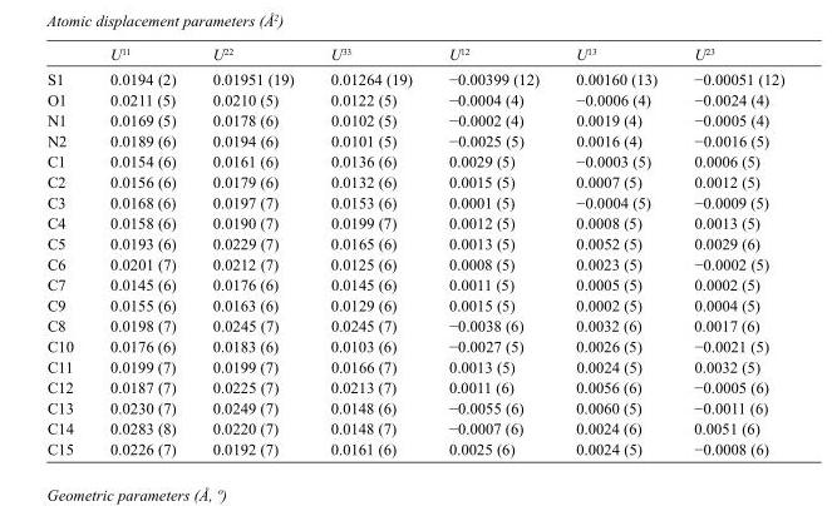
<table><thead><tr><td></td><td>U<sup>11</sup></td><td>U<sup>22</sup></td><td>U<sup>33</sup></td><td>U<sup>12</sup></td><td>U<sup>13</sup></td><td>U<sup>23</sup></td></tr></thead><tbody><tr><td>S1</td><td>0.0194 (2)</td><td>0.01951 (19)</td><td>0.01264 (19)</td><td>−0.00399 (12)</td><td>0.00160 (13)</td><td>−0.00051 (12)</td></tr><tr><td>O1</td><td>0.0211 (5)</td><td>0.0210 (5)</td><td>0.0122 (5)</td><td>−0.0004 (4)</td><td>−0.0006 (4)</td><td>−0.0024 (4)</td></tr><tr><td>N1</td><td>0.0169 (5)</td><td>0.0178 (6)</td><td>0.0102 (5)</td><td>−0.0002 (4)</td><td>0.0019 (4)</td><td>−0.0005 (4)</td></tr><tr><td>N2</td><td>0.0189 (6)</td><td>0.0194 (6)</td><td>0.0101 (5)</td><td>−0.0025 (5)</td><td>0.0016 (4)</td><td>−0.0016 (5)</td></tr><tr><td>C1</td><td>0.0154 (6)</td><td>0.0161 (6)</td><td>0.0136 (6)</td><td>0.0029 (5)</td><td>−0.0003 (5)</td><td>0.0006 (5)</td></tr><tr><td>C2</td><td>0.0156 (6)</td><td>0.0179 (6)</td><td>0.0132 (6)</td><td>0.0015 (5)</td><td>0.0007 (5)</td><td>0.0012 (5)</td></tr><tr><td>C3</td><td>0.0168 (6)</td><td>0.0197 (7)</td><td>0.0153 (6)</td><td>0.0001 (5)</td><td>−0.0004 (5)</td><td>−0.0009 (5)</td></tr><tr><td>C4</td><td>0.0158 (6)</td><td>0.0190 (7)</td><td>0.0199 (7)</td><td>0.0012 (5)</td><td>0.0008 (5)</td><td>0.0013 (5)</td></tr><tr><td>C5</td><td>0.0193 (6)</td><td>0.0229 (7)</td><td>0.0165 (6)</td><td>0.0013 (5)</td><td>0.0052 (5)</td><td>0.0029 (6)</td></tr><tr><td>C6</td><td>0.0201 (7)</td><td>0.0212 (7)</td><td>0.0125 (6)</td><td>0.0008 (5)</td><td>0.0023 (5)</td><td>−0.0002 (5)</td></tr><tr><td>C7</td><td>0.0145 (6)</td><td>0.0176 (6)</td><td>0.0145 (6)</td><td>0.0011 (5)</td><td>0.0005 (5)</td><td>0.0002 (5)</td></tr><tr><td>C9</td><td>0.0155 (6)</td><td>0.0163 (6)</td><td>0.0129 (6)</td><td>0.0015 (5)</td><td>0.0002 (5)</td><td>0.0004 (5)</td></tr><tr><td>C8</td><td>0.0198 (7)</td><td>0.0245 (7)</td><td>0.0245 (7)</td><td>−0.0038 (6)</td><td>0.0032 (6)</td><td>0.0017 (6)</td></tr><tr><td>C10</td><td>0.0176 (6)</td><td>0.0183 (6)</td><td>0.0103 (6)</td><td>−0.0027 (5)</td><td>0.0026 (5)</td><td>−0.0021 (5)</td></tr><tr><td>C11</td><td>0.0199 (7)</td><td>0.0199 (7)</td><td>0.0166 (7)</td><td>0.0013 (5)</td><td>0.0024 (5)</td><td>0.0032 (5)</td></tr><tr><td>C12</td><td>0.0187 (7)</td><td>0.0225 (7)</td><td>0.0213 (7)</td><td>0.0011 (6)</td><td>0.0056 (6)</td><td>−0.0005 (6)</td></tr><tr><td>C13</td><td>0.0230 (7)</td><td>0.0249 (7)</td><td>0.0148 (6)</td><td>−0.0055 (6)</td><td>0.0060 (5)</td><td>−0.0011 (6)</td></tr><tr><td>C14</td><td>0.0283 (8)</td><td>0.0220 (7)</td><td>0.0148 (7)</td><td>−0.0007 (6)</td><td>0.0024 (6)</td><td>0.0051 (6)</td></tr><tr><td>C15</td><td>0.0226 (7)</td><td>0.0192 (7)</td><td>0.0161 (6)</td><td>0.0025 (6)</td><td>0.0024 (5)</td><td>−0.0008 (6)</td></tr></tbody></table>